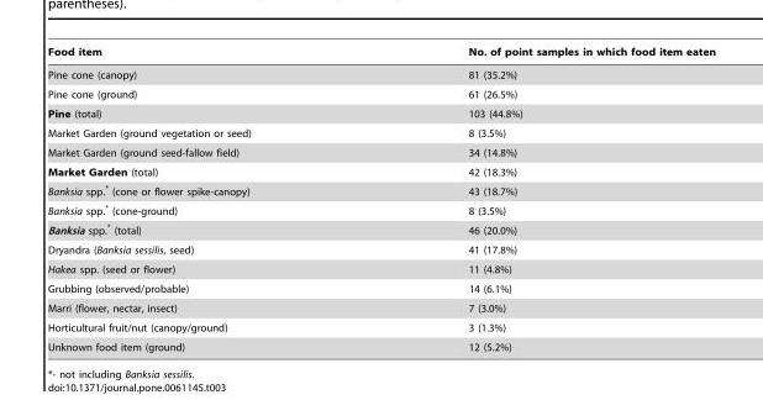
<table><thead><tr><td>Food item</td><td>No. of point samples in which food item eaten</td></tr></thead><tbody><tr><td>Pine cone (canopy)</td><td>81 (35.2%)</td></tr><tr><td>Pine cone (ground)</td><td>61 (26.5%)</td></tr><tr><td>Pine (total)</td><td>103 (44.8%)</td></tr><tr><td>Market Garden (ground vegetation or seed)</td><td>8 (3.5%)</td></tr><tr><td>Market Garden (ground seed-fallow field)</td><td>34 (14.8%)</td></tr><tr><td>Market Garden (total)</td><td>42 (18.3%)</td></tr><tr><td>Banksia spp.* (cone or flower spike-canopy)</td><td>43 (18.7%)</td></tr><tr><td>Banksia spp.* (cone-ground)</td><td>8 (3.5%)</td></tr><tr><td>Banksia spp.* (total)</td><td>46 (20.0%)</td></tr><tr><td>Dryandra (Banksia sessilis, seed)</td><td>41 (17.8%)</td></tr><tr><td>Hakea spp. (seed or flower)</td><td>11 (4.8%)</td></tr><tr><td>Grubbing (observed/probable)</td><td>14 (6.1%)</td></tr><tr><td>Marri (flower, nectar, insect)</td><td>7 (3.0%)</td></tr><tr><td>Horticultural fruit/nut (canopy/ground)</td><td>3 (1.3%)</td></tr><tr><td>Unknown food item (ground)</td><td>12 (5.2%)</td></tr></tbody></table>